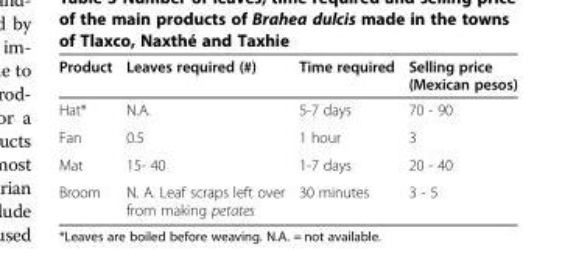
<table><thead><tr><td>Product</td><td>Leaves required (#)</td><td>Time required</td><td>Selling price (Mexican pesos)</td></tr></thead><tbody><tr><td>Hat*</td><td>N.A.</td><td>5-7 days</td><td>70 - 90</td></tr><tr><td>Fan</td><td>0.5</td><td>1 hour</td><td>3</td></tr><tr><td>Mat</td><td>15- 40</td><td>1-7 days</td><td>20 - 40</td></tr><tr><td>Broom</td><td>N. A. Leaf scraps left over from making petates</td><td>30 minutes</td><td>3 - 5</td></tr></tbody></table>